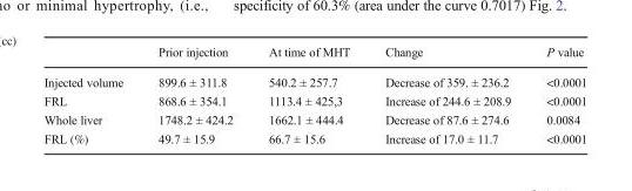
<table><thead><tr><td></td><td>Prior injection</td><td>At time of MHT</td><td>Change</td><td>P value</td></tr></thead><tbody><tr><td>Injected volume</td><td>899.6 ± 311.8</td><td>540.2 ± 257.7</td><td>Decrease of 359. ± 236.2</td><td>&lt;0.0001</td></tr><tr><td>FRL</td><td>868.6 ± 354.1</td><td>1113.4 ± 425,3</td><td>Increase of 244.6 ± 208.9</td><td>&lt;0.0001</td></tr><tr><td>Whole liver</td><td>1748.2 ± 424.2</td><td>1662.1 ± 444.4</td><td>Decrease of 87.6 ± 274.6</td><td>0.0084</td></tr><tr><td>FRL (%)</td><td>49.7 ± 15.9</td><td>66.7 ± 15.6</td><td>Increase of 17.0 ± 11.7</td><td>&lt;0.0001</td></tr></tbody></table>